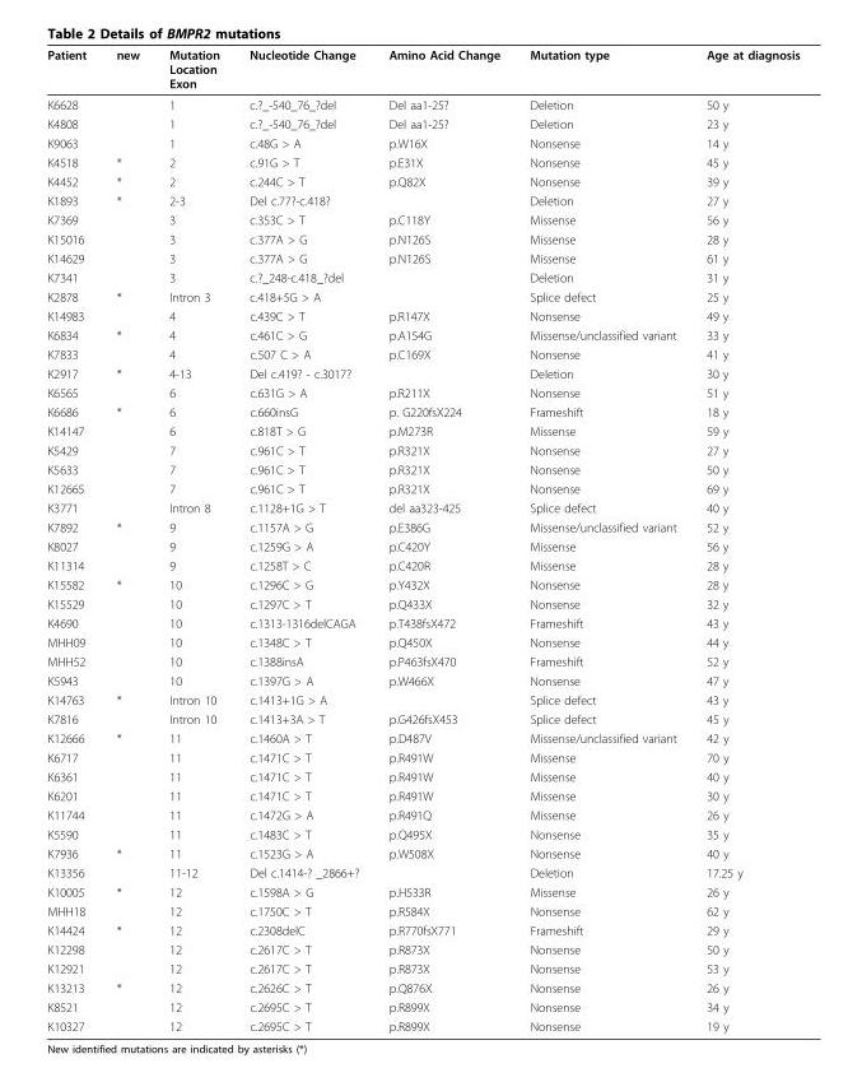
<table><thead><tr><td>Patient</td><td>new</td><td>Mutation Location Exon</td><td>Nucleotide Change</td><td>Amino Acid Change</td><td>Mutation type</td><td>Age at diagnosis</td></tr></thead><tbody><tr><td>K6628</td><td></td><td>1</td><td>c.?_-540_76_?del</td><td>Del aa1-25?</td><td>Deletion</td><td>50 y</td></tr><tr><td>K4808</td><td></td><td>1</td><td>c.?_-540_76_?del</td><td>Del aa1-25?</td><td>Deletion</td><td>23 y</td></tr><tr><td>K9063</td><td></td><td>1</td><td>c.48G &gt; A</td><td>p.W16X</td><td>Nonsense</td><td>14 y</td></tr><tr><td>K4518</td><td>*</td><td>2</td><td>c.91G &gt; T</td><td>p.E31X</td><td>Nonsense</td><td>45 y</td></tr><tr><td>K4452</td><td>*</td><td>2</td><td>c.244C &gt; T</td><td>p.Q82X</td><td>Nonsense</td><td>39 y</td></tr><tr><td>K1893</td><td>*</td><td>2-3</td><td>Del c.77?-c.418?</td><td></td><td>Deletion</td><td>27 y</td></tr><tr><td>K7369</td><td></td><td>3</td><td>c.353C &gt; T</td><td>p.C118Y</td><td>Missense</td><td>56 y</td></tr><tr><td>K15016</td><td></td><td>3</td><td>c.377A &gt; G</td><td>p.N126S</td><td>Missense</td><td>28 y</td></tr><tr><td>K14629</td><td></td><td>3</td><td>c.377A &gt; G</td><td>p.N126S</td><td>Missense</td><td>61 y</td></tr><tr><td>K7341</td><td></td><td>3</td><td>c.?_248-c.418_?del</td><td></td><td>Deletion</td><td>31 y</td></tr><tr><td>K2878</td><td>*</td><td>Intron 3</td><td>c.418+5G &gt; A</td><td></td><td>Splice defect</td><td>25 y</td></tr><tr><td>K14983</td><td></td><td>4</td><td>c.439C &gt; T</td><td>p.R147X</td><td>Nonsense</td><td>49 y</td></tr><tr><td>K6834</td><td>*</td><td>4</td><td>c.461C &gt; G</td><td>p.A154G</td><td>Missense/unclassified variant</td><td>33 y</td></tr><tr><td>K7833</td><td></td><td>4</td><td>c.507 C &gt; A</td><td>p.C169X</td><td>Nonsense</td><td>41 y</td></tr><tr><td>K2917</td><td>*</td><td>4-13</td><td>Del c.419? - c.3017?</td><td></td><td>Deletion</td><td>30 y</td></tr><tr><td>K6565</td><td></td><td>6</td><td>c.631G &gt; A</td><td>p.R211X</td><td>Nonsense</td><td>51 y</td></tr><tr><td>K6686</td><td>*</td><td>6</td><td>c.660insG</td><td>p. G220fsX224</td><td>Frameshift</td><td>18 y</td></tr><tr><td>K14147</td><td></td><td>6</td><td>c.818T &gt; G</td><td>p.M273R</td><td>Missense</td><td>59 y</td></tr><tr><td>K5429</td><td></td><td>7</td><td>c.961C &gt; T</td><td>p.R321X</td><td>Nonsense</td><td>27 y</td></tr><tr><td>K5633</td><td></td><td>7</td><td>c.961C &gt; T</td><td>p.R321X</td><td>Nonsense</td><td>50 y</td></tr><tr><td>K12665</td><td></td><td>7</td><td>c.961C &gt; T</td><td>p.R321X</td><td>Nonsense</td><td>69 y</td></tr><tr><td>K3771</td><td></td><td>Intron 8</td><td>c.1128+1G &gt; T</td><td>del aa323-425</td><td>Splice defect</td><td>40 y</td></tr><tr><td>K7892</td><td>*</td><td>9</td><td>c.1157A &gt; G</td><td>p.E386G</td><td>Missense/unclassified variant</td><td>52 y</td></tr><tr><td>K8027</td><td></td><td>9</td><td>c.1259G &gt; A</td><td>p.C420Y</td><td>Missense</td><td>56 y</td></tr><tr><td>K11314</td><td></td><td>9</td><td>c.1258T &gt; C</td><td>p.C420R</td><td>Missense</td><td>28 y</td></tr><tr><td>K15582</td><td>*</td><td>10</td><td>c.1296C &gt; G</td><td>p.Y432X</td><td>Nonsense</td><td>28 y</td></tr><tr><td>K15529</td><td></td><td>10</td><td>c.1297C &gt; T</td><td>p.Q433X</td><td>Nonsense</td><td>32 y</td></tr><tr><td>K4690</td><td></td><td>10</td><td>c.1313-1316delCAGA</td><td>p.T438fsX472</td><td>Frameshift</td><td>43 y</td></tr><tr><td>MHH09</td><td></td><td>10</td><td>c.1348C &gt; T</td><td>p.Q450X</td><td>Nonsense</td><td>44 y</td></tr><tr><td>MHH52</td><td></td><td>10</td><td>c.1388insA</td><td>p.P463fsX470</td><td>Frameshift</td><td>52 y</td></tr><tr><td>K5943</td><td></td><td>10</td><td>c.1397G &gt; A</td><td>p.W466X</td><td>Nonsense</td><td>47 y</td></tr><tr><td>K14763</td><td>*</td><td>Intron 10</td><td>c.1413+1G &gt; A</td><td></td><td>Splice defect</td><td>43 y</td></tr><tr><td>K7816</td><td></td><td>Intron 10</td><td>c.1413+3A &gt; T</td><td>p.G426fsX453</td><td>Splice defect</td><td>45 y</td></tr><tr><td>K12666</td><td>*</td><td>11</td><td>c.1460A &gt; T</td><td>p.D487V</td><td>Missense/unclassified variant</td><td>42 y</td></tr><tr><td>K6717</td><td></td><td>11</td><td>c.1471C &gt; T</td><td>p.R491W</td><td>Missense</td><td>70 y</td></tr><tr><td>K6361</td><td></td><td>11</td><td>c.1471C &gt; T</td><td>p.R491W</td><td>Missense</td><td>40 y</td></tr><tr><td>K6201</td><td></td><td>11</td><td>c.1471C &gt; T</td><td>p.R491W</td><td>Missense</td><td>30 y</td></tr><tr><td>K11744</td><td></td><td>11</td><td>c.1472G &gt; A</td><td>p.R491Q</td><td>Missense</td><td>26 y</td></tr><tr><td>K5590</td><td></td><td>11</td><td>c.1483C &gt; T</td><td>p.Q495X</td><td>Nonsense</td><td>35 y</td></tr><tr><td>K7936</td><td>*</td><td>11</td><td>c.1523G &gt; A</td><td>p.W508X</td><td>Nonsense</td><td>40 y</td></tr><tr><td>K13356</td><td></td><td>11-12</td><td>Del c.1414-? _2866+?</td><td></td><td>Deletion</td><td>17.25 y</td></tr><tr><td>K10005</td><td>*</td><td>12</td><td>c.1598A &gt; G</td><td>p.H533R</td><td>Missense</td><td>26 y</td></tr><tr><td>MHH18</td><td></td><td>12</td><td>c.1750C &gt; T</td><td>p.R584X</td><td>Nonsense</td><td>62 y</td></tr><tr><td>K14424</td><td>*</td><td>12</td><td>c.2308delC</td><td>p.R770fsX771</td><td>Frameshift</td><td>29 y</td></tr><tr><td>K12298</td><td></td><td>12</td><td>c.2617C &gt; T</td><td>p.R873X</td><td>Nonsense</td><td>50 y</td></tr><tr><td>K12921</td><td></td><td>12</td><td>c.2617C &gt; T</td><td>p.R873X</td><td>Nonsense</td><td>53 y</td></tr><tr><td>K13213</td><td>*</td><td>12</td><td>c.2626C &gt; T</td><td>p.Q876X</td><td>Nonsense</td><td>26 y</td></tr><tr><td>K8521</td><td></td><td>12</td><td>c.2695C &gt; T</td><td>p.R899X</td><td>Nonsense</td><td>34 y</td></tr><tr><td>K10327</td><td></td><td>12</td><td>c.2695C &gt; T</td><td>p.R899X</td><td>Nonsense</td><td>19 y</td></tr></tbody></table>